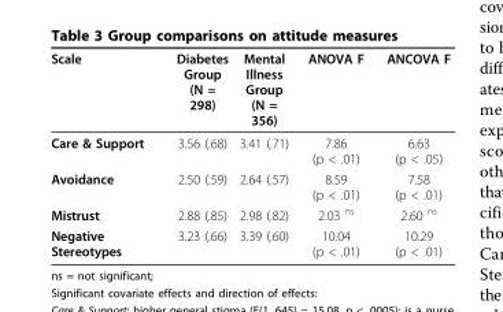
<table><thead><tr><td>Scale</td><td>Diabetes Group (N = 298)</td><td>Mental Illness Group (N = 356)</td><td>ANOVA F</td><td>ANCOVA F</td></tr></thead><tbody><tr><td>Care &amp; Support</td><td>3.56 (.68)</td><td>3.41 (.71)</td><td>7.86 (p &lt; .01)</td><td>6.63 (p &lt; .05)</td></tr><tr><td>Avoidance</td><td>2.50 (.59)</td><td>2.64 (.57)</td><td>8.59 (p &lt; .01)</td><td>7.58 (p &lt; .01)</td></tr><tr><td>Mistrust</td><td>2.88 (.85)</td><td>2.98 (.82)</td><td>2.03 <sup>ns</sup></td><td>2.60 <sup>ns</sup></td></tr><tr><td>Negative Stereotypes</td><td>3.23 (.66)</td><td>3.39 (.60)</td><td>10.04 (p &lt; .01)</td><td>10.29 (p &lt; .01)</td></tr></tbody></table>